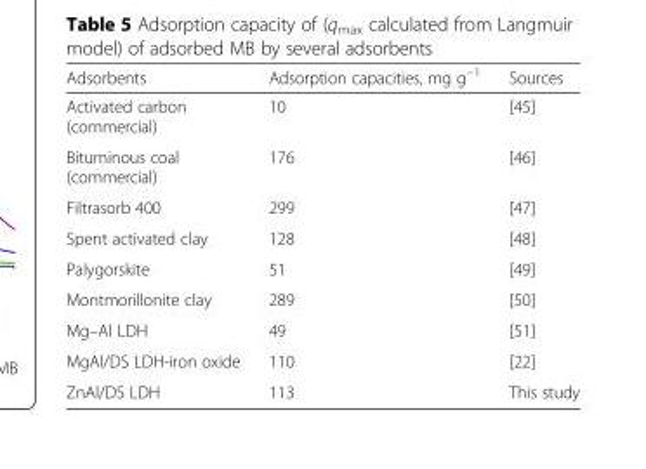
<table><thead><tr><td>Adsorbents</td><td>Adsorption capacities, mg g<sup>−1</sup></td><td>Sources</td></tr></thead><tbody><tr><td>Activated carbon (commercial)</td><td>10</td><td>[45]</td></tr><tr><td>Bituminous coal (commercial)</td><td>176</td><td>[46]</td></tr><tr><td>Filtrasorb 400</td><td>299</td><td>[47]</td></tr><tr><td>Spent activated clay</td><td>128</td><td>[48]</td></tr><tr><td>Palygorskite</td><td>51</td><td>[49]</td></tr><tr><td>Montmorillonite clay</td><td>289</td><td>[50]</td></tr><tr><td>Mg–Al LDH</td><td>49</td><td>[51]</td></tr><tr><td>MgAl/DS LDH-iron oxide</td><td>110</td><td>[22]</td></tr><tr><td>ZnAl/DS LDH</td><td>113</td><td>This study</td></tr></tbody></table>